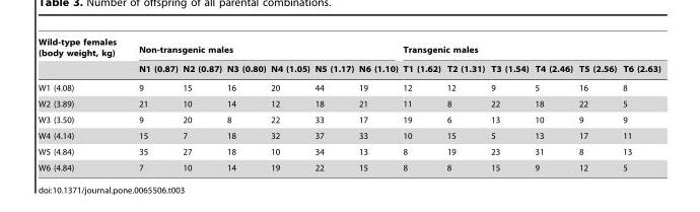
<table><thead><tr><td rowspan="2">Wild-type females (body weight, kg)</td><td colspan="6">Non-transgenic males</td><td colspan="6">Transgenic males</td></tr><tr><td>N1 (0.87)</td><td>N2 (0.87)</td><td>N3 (0.80)</td><td>N4 (1.05)</td><td>N5 (1.17)</td><td>N6 (1.10)</td><td>T1 (1.62)</td><td>T2 (1.31)</td><td>T3 (1.54)</td><td>T4 (2.46)</td><td>T5 (2.56)</td><td>T6 (2.63)</td></tr></thead><tbody><tr><td>W1 (4.08)</td><td>9</td><td>15</td><td>16</td><td>20</td><td>44</td><td>19</td><td>12</td><td>12</td><td>9</td><td>5</td><td>16</td><td>8</td></tr><tr><td>W2 (3.89)</td><td>21</td><td>10</td><td>14</td><td>12</td><td>18</td><td>21</td><td>11</td><td>8</td><td>22</td><td>18</td><td>22</td><td>5</td></tr><tr><td>W3 (3.50)</td><td>9</td><td>20</td><td>8</td><td>22</td><td>33</td><td>17</td><td>19</td><td>6</td><td>13</td><td>10</td><td>9</td><td>9</td></tr><tr><td>W4 (4.14)</td><td>15</td><td>7</td><td>18</td><td>32</td><td>37</td><td>33</td><td>10</td><td>15</td><td>5</td><td>13</td><td>17</td><td>11</td></tr><tr><td>W5 (4.84)</td><td>35</td><td>27</td><td>18</td><td>10</td><td>34</td><td>13</td><td>8</td><td>19</td><td>23</td><td>31</td><td>8</td><td>13</td></tr><tr><td>W6 (4.84)</td><td>7</td><td>10</td><td>14</td><td>19</td><td>22</td><td>15</td><td>8</td><td>8</td><td>15</td><td>9</td><td>12</td><td>5</td></tr></tbody></table>